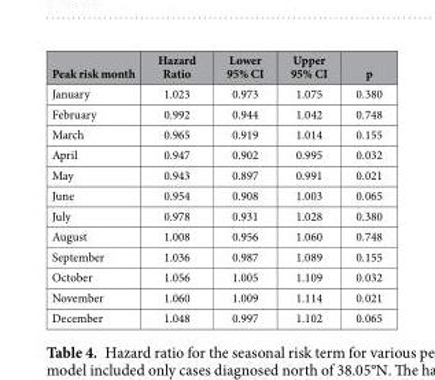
<table><thead><tr><td>Peak risk month</td><td>Hazard Ratio</td><td>Lower 95% CI</td><td>Upper 95% CI</td><td>p</td></tr></thead><tbody><tr><td>January</td><td>1.023</td><td>0.973</td><td>1.075</td><td>0.380</td></tr><tr><td>February</td><td>0.992</td><td>0.944</td><td>1.042</td><td>0.748</td></tr><tr><td>March</td><td>0.965</td><td>0.919</td><td>1.014</td><td>0.155</td></tr><tr><td>April</td><td>0.947</td><td>0.902</td><td>0.995</td><td>0.032</td></tr><tr><td>May</td><td>0.943</td><td>0.897</td><td>0.991</td><td>0.021</td></tr><tr><td>June</td><td>0.954</td><td>0.908</td><td>1.003</td><td>0.065</td></tr><tr><td>July</td><td>0.978</td><td>0.931</td><td>1.028</td><td>0.380</td></tr><tr><td>August</td><td>1.008</td><td>0.956</td><td>1.060</td><td>0.748</td></tr><tr><td>September</td><td>1.036</td><td>0.987</td><td>1.089</td><td>0.155</td></tr><tr><td>October</td><td>1.056</td><td>1.005</td><td>1.109</td><td>0.032</td></tr><tr><td>November</td><td>1.060</td><td>1.009</td><td>1.114</td><td>0.021</td></tr><tr><td>December</td><td>1.048</td><td>0.997</td><td>1.102</td><td>0.065</td></tr></tbody></table>